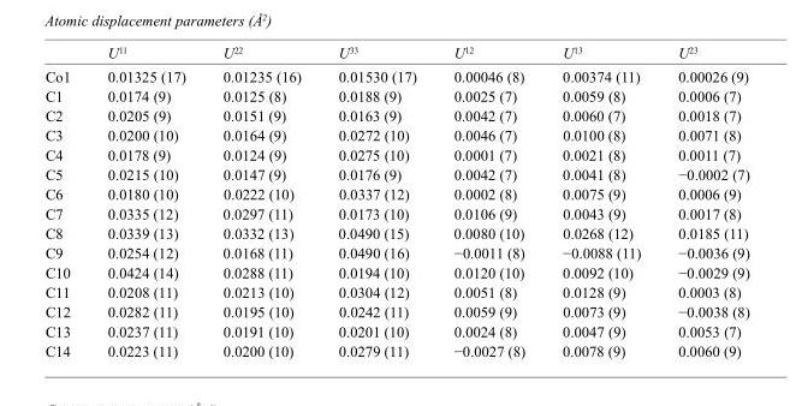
<table><thead><tr><td></td><td>U<sup>11</sup></td><td>U<sup>22</sup></td><td>U<sup>33</sup></td><td>U<sup>12</sup></td><td>U<sup>13</sup></td><td>U<sup>23</sup></td></tr></thead><tbody><tr><td>Co1</td><td>0.01325 (17)</td><td>0.01235 (16)</td><td>0.01530 (17)</td><td>0.00046 (8)</td><td>0.00374 (11)</td><td>0.00026 (9)</td></tr><tr><td>C1</td><td>0.0174 (9)</td><td>0.0125 (8)</td><td>0.0188 (9)</td><td>0.0025 (7)</td><td>0.0059 (8)</td><td>0.0006 (7)</td></tr><tr><td>C2</td><td>0.0205 (9)</td><td>0.0151 (9)</td><td>0.0163 (9)</td><td>0.0042 (7)</td><td>0.0060 (7)</td><td>0.0018 (7)</td></tr><tr><td>C3</td><td>0.0200 (10)</td><td>0.0164 (9)</td><td>0.0272 (10)</td><td>0.0046 (7)</td><td>0.0100 (8)</td><td>0.0071 (8)</td></tr><tr><td>C4</td><td>0.0178 (9)</td><td>0.0124 (9)</td><td>0.0275 (10)</td><td>0.0001 (7)</td><td>0.0021 (8)</td><td>0.0011 (7)</td></tr><tr><td>C5</td><td>0.0215 (10)</td><td>0.0147 (9)</td><td>0.0176 (9)</td><td>0.0042 (7)</td><td>0.0041 (8)</td><td>−0.0002 (7)</td></tr><tr><td>C6</td><td>0.0180 (10)</td><td>0.0222 (10)</td><td>0.0337 (12)</td><td>0.0002 (8)</td><td>0.0075 (9)</td><td>0.0006 (9)</td></tr><tr><td>C7</td><td>0.0335 (12)</td><td>0.0297 (11)</td><td>0.0173 (10)</td><td>0.0106 (9)</td><td>0.0043 (9)</td><td>0.0017 (8)</td></tr><tr><td>C8</td><td>0.0339 (13)</td><td>0.0332 (13)</td><td>0.0490 (15)</td><td>0.0080 (10)</td><td>0.0268 (12)</td><td>0.0185 (11)</td></tr><tr><td>C9</td><td>0.0254 (12)</td><td>0.0168 (11)</td><td>0.0490 (16)</td><td>−0.0011 (8)</td><td>−0.0088 (11)</td><td>−0.0036 (9)</td></tr><tr><td>C10</td><td>0.0424 (14)</td><td>0.0288 (11)</td><td>0.0194 (10)</td><td>0.0120 (10)</td><td>0.0092 (10)</td><td>−0.0029 (9)</td></tr><tr><td>C11</td><td>0.0208 (11)</td><td>0.0213 (10)</td><td>0.0304 (12)</td><td>0.0051 (8)</td><td>0.0128 (9)</td><td>0.0003 (8)</td></tr><tr><td>C12</td><td>0.0282 (11)</td><td>0.0195 (10)</td><td>0.0242 (11)</td><td>0.0059 (9)</td><td>0.0073 (9)</td><td>−0.0038 (8)</td></tr><tr><td>C13</td><td>0.0237 (11)</td><td>0.0191 (10)</td><td>0.0201 (10)</td><td>0.0024 (8)</td><td>0.0047 (9)</td><td>0.0053 (7)</td></tr><tr><td>C14</td><td>0.0223 (11)</td><td>0.0200 (10)</td><td>0.0279 (11)</td><td>−0.0027 (8)</td><td>0.0078 (9)</td><td>0.0060 (9)</td></tr></tbody></table>